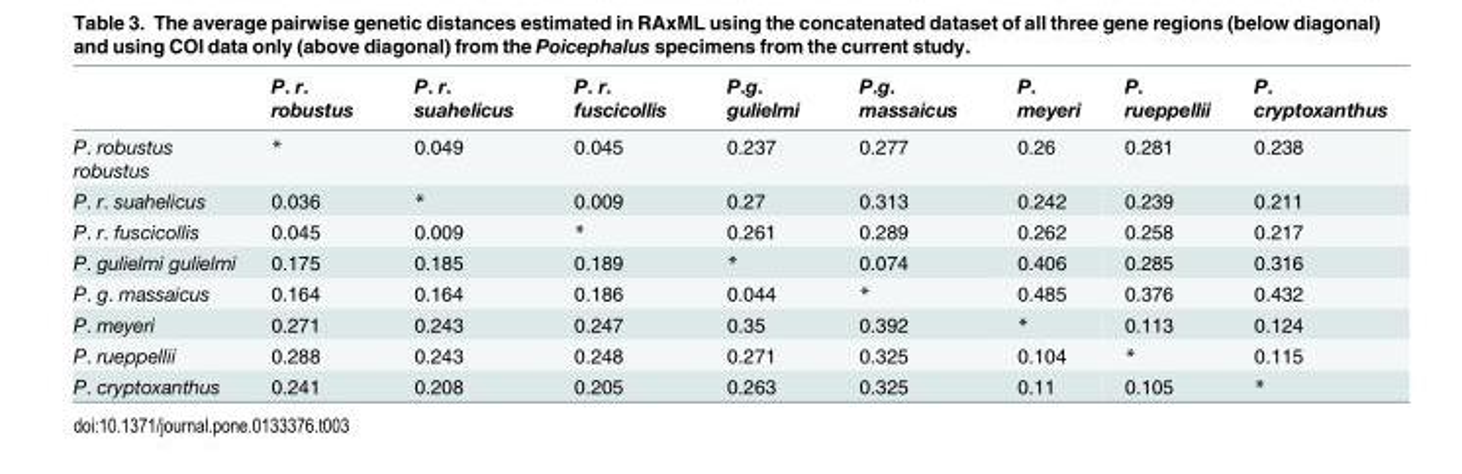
<table><thead><tr><td></td><td>P. r. robustus</td><td>P. r. suahelicus</td><td>P. r. fuscicollis</td><td>P.g. gulielmi</td><td>P.g. massaicus</td><td>P. meyeri</td><td>P. rueppellii</td><td>P. cryptoxanthus</td></tr></thead><tbody><tr><td>P. robustus robustus</td><td>*</td><td>0.049</td><td>0.045</td><td>0.237</td><td>0.277</td><td>0.26</td><td>0.281</td><td>0.238</td></tr><tr><td>P. r. suahelicus</td><td>0.036</td><td>*</td><td>0.009</td><td>0.27</td><td>0.313</td><td>0.242</td><td>0.239</td><td>0.211</td></tr><tr><td>P. r. fuscicollis</td><td>0.045</td><td>0.009</td><td>*</td><td>0.261</td><td>0.289</td><td>0.262</td><td>0.258</td><td>0.217</td></tr><tr><td>P. gulielmi gulielmi</td><td>0.175</td><td>0.185</td><td>0.189</td><td>*</td><td>0.074</td><td>0.406</td><td>0.285</td><td>0.316</td></tr><tr><td>P. g. massaicus</td><td>0.164</td><td>0.164</td><td>0.186</td><td>0.044</td><td>*</td><td>0.485</td><td>0.376</td><td>0.432</td></tr><tr><td>P. meyeri</td><td>0.271</td><td>0.243</td><td>0.247</td><td>0.35</td><td>0.392</td><td>*</td><td>0.113</td><td>0.124</td></tr><tr><td>P. rueppellii</td><td>0.288</td><td>0.243</td><td>0.248</td><td>0.271</td><td>0.325</td><td>0.104</td><td>*</td><td>0.115</td></tr><tr><td>P. cryptoxanthus</td><td>0.241</td><td>0.208</td><td>0.205</td><td>0.263</td><td>0.325</td><td>0.11</td><td>0.105</td><td>*</td></tr></tbody></table>